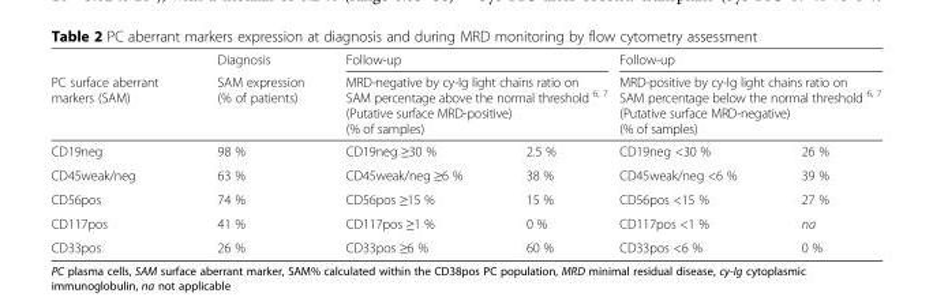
<table><thead><tr><td rowspan="3">PC surface aberrant markers (SAM) CD19neg</td><td rowspan="3">Diagnosis SAM expression (% of patients) 98 %</td><td rowspan="2" colspan="2">Follow-up MRD-negative by cy-Ig light chains ratio on SAM percentage above the normal threshold <sup>6, 7</sup> (Putative surface MRD-positive) (% of samples)</td><td rowspan="2" colspan="2">Follow-up MRD-positive by cy-Ig light chains ratio on SAM percentage below the normal threshold <sup>6, 7</sup> (Putative surface MRD-negative) (% of samples)</td></tr><tr></tr><tr><td>CD19neg ≥30 %</td><td>2.5 %</td><td>CD19neg &lt;30 %</td><td>26 %</td></tr></thead><tbody><tr><td>CD45weak/neg</td><td>63 %</td><td>CD45weak/neg ≥6 %</td><td>38 %</td><td>CD45weak/neg &lt;6 %</td><td>39 %</td></tr><tr><td>CD56pos</td><td>74 %</td><td>CD56pos ≥15 %</td><td>15 %</td><td>CD56pos &lt;15 %</td><td>27 %</td></tr><tr><td>CD117pos</td><td>41 %</td><td>CD117pos ≥1 %</td><td>0 %</td><td>CD117pos &lt;1 %</td><td>na</td></tr><tr><td>CD33pos</td><td>26 %</td><td>CD33pos ≥6 %</td><td>60 %</td><td>CD33pos &lt;6 %</td><td>0 %</td></tr></tbody></table>